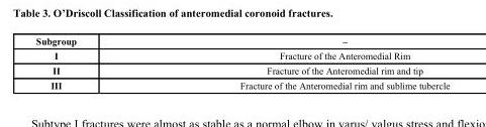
<table><thead><tr><td>Subgroup</td><td>–</td></tr></thead><tbody><tr><td>I</td><td>Fracture of the Anteromedial Rim</td></tr><tr><td>II</td><td>Fracture of the Anteromedial rim and tip</td></tr><tr><td>III</td><td>Fracture of the Anteromedial rim and sublime tubercle</td></tr></tbody></table>